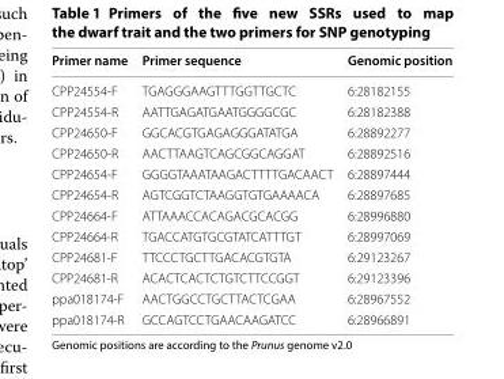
<table><thead><tr><td>Primer name</td><td>Primer sequence</td><td>Genomic position</td></tr></thead><tbody><tr><td>CPP24554-F</td><td>TGA GGG AAG TTT GGT TGC TC</td><td>6:28182155</td></tr><tr><td>CPP24554-R</td><td>AAT TGA GAT GAA TGG GGC GC</td><td>6:28182388</td></tr><tr><td>CPP24650-F</td><td>GGC ACG TGA GAG GGA TAT GA</td><td>6:28892277</td></tr><tr><td>CPP24650-R</td><td>AAC TTA AGT CAG CGG CAG GAT</td><td>6:28892516</td></tr><tr><td>CPP24654-F</td><td>GGG GTA AAT AAG ACT TTT GAC AAC T</td><td>6:28897444</td></tr><tr><td>CPP24654-R</td><td>AGT CGG TCT AAG GTG TGA AAACA</td><td>6:28897685</td></tr><tr><td>CPP24664-F</td><td>ATT AAA CCA CAG ACG CAC GG</td><td>6:28996880</td></tr><tr><td>CPP24664-R</td><td>TGA CCA TGT GCG TAT CAT TTGT</td><td>6:28997069</td></tr><tr><td>CPP24681-F</td><td>TTC CCT GCT TGA CAC GTG TA</td><td>6:29123267</td></tr><tr><td>CPP24681-R</td><td>ACA CTC ACT CTG TCT TCC GGT</td><td>6:29123396</td></tr><tr><td>ppa018174-F</td><td>AAC TGG CCT GCT TAC TCG AA</td><td>6:28967552</td></tr><tr><td>ppa018174-R</td><td>GCC AGT CCT GAA CAA GAT CC</td><td>6:28966891</td></tr></tbody></table>